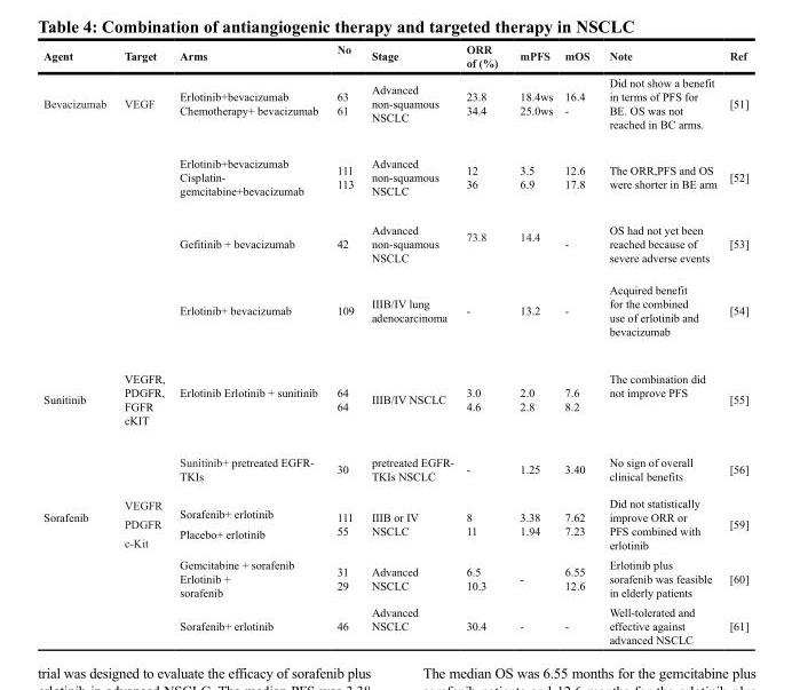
<table><thead><tr><td>Agent</td><td>Target</td><td>Arms</td><td>No</td><td>Stage</td><td>ORR of (%)</td><td>mPFS</td><td>mOS</td><td>Note</td><td>Ref</td></tr></thead><tbody><tr><td rowspan="4">Bevacizumab</td><td>VEGF</td><td>Erlotinib+bevacizumab Chemotherapy+ bevacizumab</td><td>63 61</td><td>Advanced non-squamous NSCLC</td><td>23.8 34.4</td><td>18.4ws 25.0ws</td><td>16.4 -</td><td>Did not show a benefit in terms of PFS for BE. OS was not reached in BC arms.</td><td>[51]</td></tr><tr><td></td><td>Erlotinib+bevacizumab Cisplatin- gemcitabine+bevacizumab</td><td>111 113</td><td>Advanced non-squamous NSCLC</td><td>12 36</td><td>3.5 6.9</td><td>12.6 17.8</td><td>The ORR,PFS and OS were shorter in BE arm</td><td>[52]</td></tr><tr><td></td><td>Gefitinib + bevacizumab</td><td>42</td><td>Advanced non-squamous NSCLC</td><td>73.8</td><td>14.4</td><td>-</td><td>OS had not yet been reached because of severe adverse events</td><td>[53]</td></tr><tr><td></td><td>Erlotinib+ bevacizumab</td><td>109</td><td>IIIB/IV lung adenocarcinoma</td><td>-</td><td>13.2</td><td>-</td><td>Acquired benefit for the combined use of erlotinib and bevacizumab</td><td>[54]</td></tr><tr><td rowspan="2">Sunitinib</td><td>VEGFR, PDGFR, FGFR cKIT</td><td>Erlotinib Erlotinib + sunitinib</td><td>64 64</td><td>IIIB/IV NSCLC</td><td>3.0 4.6</td><td>2.0 2.8</td><td>7.6 8.2</td><td>The combination did not improve PFS</td><td>[55]</td></tr><tr><td></td><td>Sunitinib+ pretreated EGFR- TKIs</td><td>30</td><td>pretreated EGFR- TKIs NSCLC</td><td>-</td><td>1.25</td><td>3.40</td><td>No sign of overall clinical benefits</td><td>[56]</td></tr><tr><td rowspan="3">Sorafenib</td><td>VEGFR PDGFR c-Kit</td><td>Sorafenib+ erlotinib Placebo+ erlotinib</td><td>111 55</td><td>IIIB or IV NSCLC</td><td>8 11</td><td>3.38 1.94</td><td>7.62 7.23</td><td>Did not statistically improve ORR or PFS combined with erlotinib</td><td>[59]</td></tr><tr><td></td><td>Gemcitabine + sorafenib Erlotinib + sorafenib</td><td>31 29</td><td>Advanced NSCLC</td><td>6.5 10.3</td><td>-</td><td>6.55 12.6</td><td>Erlotinib plus sorafenib was feasible in elderly patients</td><td>[60]</td></tr><tr><td></td><td>Sorafenib+ erlotinib</td><td>46</td><td>Advanced NSCLC</td><td>30.4</td><td>-</td><td>-</td><td>Well-tolerated and effective against advanced NSCLC</td><td>[61]</td></tr></tbody></table>